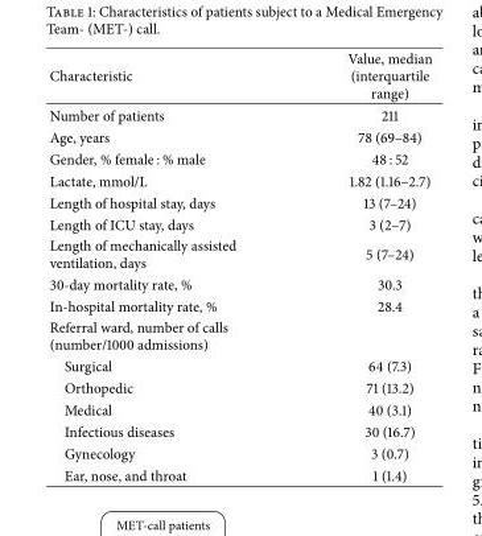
<table><thead><tr><td>Characteristic</td><td>Value, median (interquartile range)</td></tr></thead><tbody><tr><td>Number of patients</td><td>211</td></tr><tr><td>Age, years</td><td>78 (69–84)</td></tr><tr><td>Gender, % female : % male</td><td>48 : 52</td></tr><tr><td>Lactate, mmol/L</td><td>1.82 (1.16–2.7)</td></tr><tr><td>Length of hospital stay, days</td><td>13 (7–24)</td></tr><tr><td>Length of ICU stay, days</td><td>3 (2–7)</td></tr><tr><td>Length of mechanically assisted ventilation, days</td><td>5 (7–24)</td></tr><tr><td>30-day mortality rate, %</td><td>30.3</td></tr><tr><td>In-hospital mortality rate, %</td><td>28.4</td></tr><tr><td colspan="2">Referral ward, number of calls (number/1000 admissions)</td></tr><tr><td>Surgical</td><td>64 (7.3)</td></tr><tr><td>Orthopedic</td><td>71 (13.2)</td></tr><tr><td>Medical</td><td>40 (3.1)</td></tr><tr><td>Infectious diseases</td><td>30 (16.7)</td></tr><tr><td>Gynecology</td><td>3 (0.7)</td></tr><tr><td>Ear, nose, and throat</td><td>1 (1.4)</td></tr></tbody></table>